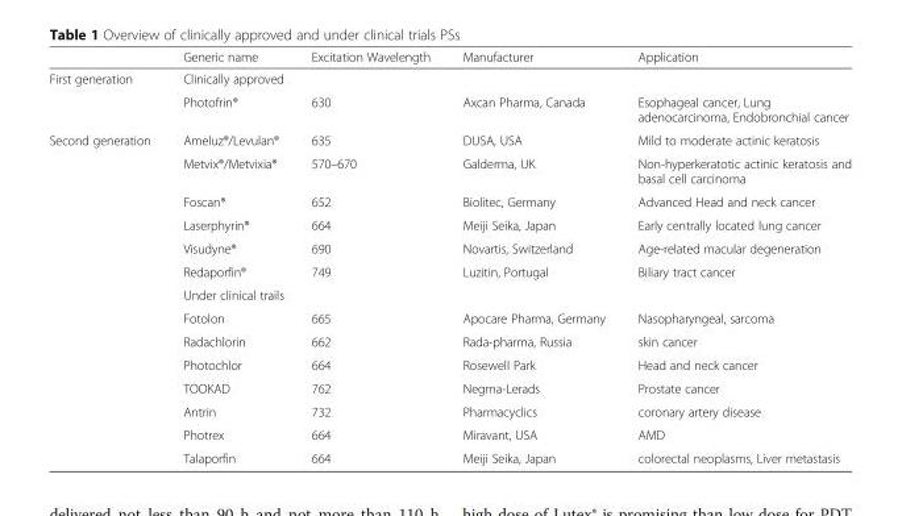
<table><thead><tr><td></td><td>Generic name</td><td>Excitation Wavelength</td><td>Manufacturer</td><td>Application</td></tr></thead><tbody><tr><td rowspan="2">First generation</td><td colspan="4">Clinically approved</td></tr><tr><td>Photofrin®</td><td>630</td><td>Axcan Pharma, Canada</td><td>Esophageal cancer, Lung adenocarcinoma, Endobronchial cancer</td></tr><tr><td rowspan="14">Second generation</td><td>Ameluz®/Levulan®</td><td>635</td><td>DUSA, USA</td><td>Mild to moderate actinic keratosis</td></tr><tr><td>Metvix®/Metvixia®</td><td>570–670</td><td>Galderma, UK</td><td>Non-hyperkeratotic actinic keratosis and basal cell carcinoma</td></tr><tr><td>Foscan®</td><td>652</td><td>Biolitec, Germany</td><td>Advanced Head and neck cancer</td></tr><tr><td>Laserphyrin®</td><td>664</td><td>Meiji Seika, Japan</td><td>Early centrally located lung cancer</td></tr><tr><td>Visudyne®</td><td>690</td><td>Novartis, Switzerland</td><td>Age-related macular degeneration</td></tr><tr><td>Redaporfin®</td><td>749</td><td>Luzitin, Portugal</td><td>Biliary tract cancer</td></tr><tr><td colspan="4">Under clinical trails</td></tr><tr><td>Fotolon</td><td>665</td><td>Apocare Pharma, Germany</td><td>Nasopharyngeal, sarcoma</td></tr><tr><td>Radachlorin</td><td>662</td><td>Rada-pharma, Russia</td><td>skin cancer</td></tr><tr><td>Photochlor</td><td>664</td><td>Rosewell Park</td><td>Head and neck cancer</td></tr><tr><td>TOOKAD</td><td>762</td><td>Negma-Lerads</td><td>Prostate cancer</td></tr><tr><td>Antrin</td><td>732</td><td>Pharmacyclics</td><td>coronary artery disease</td></tr><tr><td>Photrex</td><td>664</td><td>Miravant, USA</td><td>AMD</td></tr><tr><td>Talaporfin</td><td>664</td><td>Meiji Seika, Japan</td><td>colorectal neoplasms, Liver metastasis</td></tr></tbody></table>